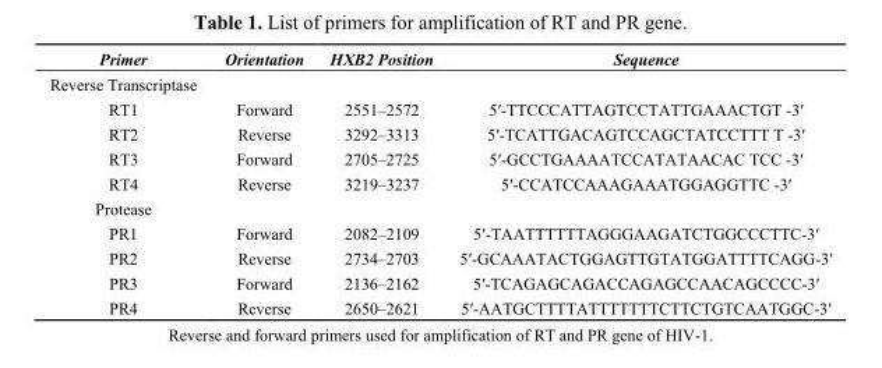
<table><thead><tr><td>Primer</td><td>Orientation</td><td>HXB2 Position</td><td>Sequence</td></tr></thead><tbody><tr><td colspan="4">Reverse Transcriptase</td></tr><tr><td>RT1</td><td>Forward</td><td>2551–2572</td><td>5ʹ-TTCCCATTAGTCCTATTGAAACTGT -3ʹ</td></tr><tr><td>RT2</td><td>Reverse</td><td>3292–3313</td><td>5ʹ-TCATTGACAGTCCAGCTATCCTTT T -3ʹ</td></tr><tr><td>RT3</td><td>Forward</td><td>2705–2725</td><td>5ʹ-GCCTGAAAATCCATATAACAC TCC -3ʹ</td></tr><tr><td>RT4</td><td>Reverse</td><td>3219–3237</td><td>5ʹ-CCATCCAAAGAAATGGAGGTTC -3ʹ</td></tr><tr><td colspan="4">Protease</td></tr><tr><td>PR1</td><td>Forward</td><td>2082–2109</td><td>5ʹ-TAATTTTTTAGGGAAGATCTGGCCCTTC-3ʹ</td></tr><tr><td>PR2</td><td>Reverse</td><td>2734–2703</td><td>5ʹ-GCAAATACTGGAGTTGTATGGATTTTCAGG-3ʹ</td></tr><tr><td>PR3</td><td>Forward</td><td>2136–2162</td><td>5ʹ-TCAGAGCAGACCAGAGCCAACAGCCCC-3ʹ</td></tr><tr><td>PR4</td><td>Reverse</td><td>2650–2621</td><td>5ʹ-AATGCTTTTATTTTTTTCTTCTGTCAATGGC-3ʹ</td></tr></tbody></table>